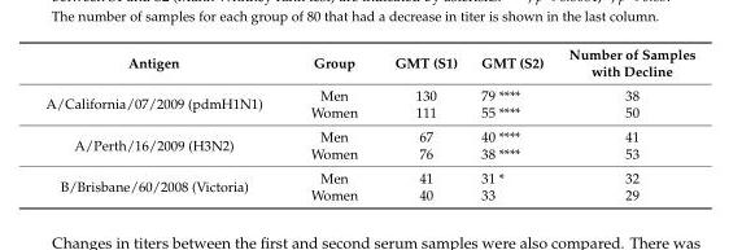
<table><thead><tr><td>Antigen</td><td>Group</td><td>GMT (S1)</td><td>GMT (S2)</td><td>Number of Samples with Decline</td></tr></thead><tbody><tr><td rowspan="2">A/California/07/2009 (pdmH1N1)</td><td>Men</td><td>130</td><td>79 ****</td><td>38</td></tr><tr><td>Women</td><td>111</td><td>55 ****</td><td>50</td></tr><tr><td rowspan="2">A/Perth/16/2009 (H3N2)</td><td>Men</td><td>67</td><td>40 ****</td><td>41</td></tr><tr><td>Women</td><td>76</td><td>38 ****</td><td>53</td></tr><tr><td rowspan="2">B/Brisbane/60/2008 (Victoria)</td><td>Men</td><td>41</td><td>31 *</td><td>32</td></tr><tr><td>Women</td><td>40</td><td>33</td><td>29</td></tr></tbody></table>